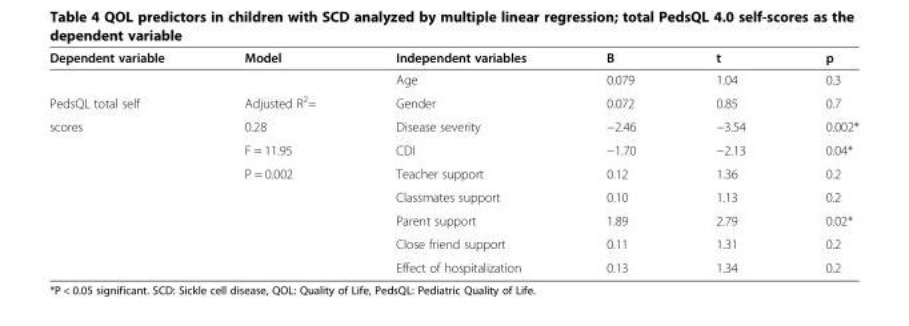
<table><thead><tr><td>Dependent variable</td><td>Model</td><td>Independent variables</td><td>B</td><td>t</td><td>p</td></tr></thead><tbody><tr><td></td><td></td><td>Age</td><td>0.079</td><td>1.04</td><td>0.3</td></tr><tr><td>PedsQL total self</td><td>Adjusted R<sup>2</sup>=</td><td>Gender</td><td>0.072</td><td>0.85</td><td>0.7</td></tr><tr><td rowspan="6">scores</td><td>0.28</td><td>Disease severity</td><td>−2.46</td><td>−3.54</td><td>0.002*</td></tr><tr><td>F = 11.95</td><td>CDI</td><td>−1.70</td><td>−2.13</td><td>0.04*</td></tr><tr><td>P = 0.002</td><td>Teacher support</td><td>0.12</td><td>1.36</td><td>0.2</td></tr><tr><td rowspan="3"></td><td>Classmates support</td><td>0.10</td><td>1.13</td><td>0.2</td></tr><tr><td>Parent support</td><td>1.89</td><td>2.79</td><td>0.02*</td></tr><tr><td>Close friend support</td><td>0.11</td><td>1.31</td><td>0.2</td></tr><tr><td colspan="2"></td><td>Effect of hospitalization</td><td>0.13</td><td>1.34</td><td>0.2</td></tr></tbody></table>